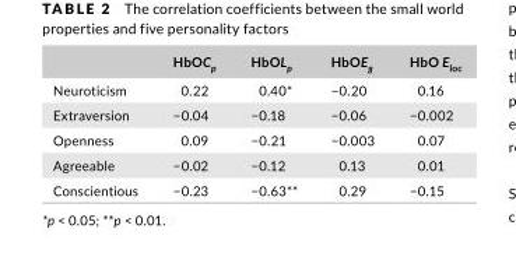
<table><thead><tr><td></td><td>HbOC<sub>p</sub></td><td>HbOL<sub>p</sub></td><td>HbOE<sub>g</sub></td><td>HbO E<sub>loc</sub></td></tr></thead><tbody><tr><td>Neuroticism</td><td>0.22</td><td>0.40*</td><td>−0.20</td><td>0.16</td></tr><tr><td>Extraversion</td><td>−0.04</td><td>−0.18</td><td>−0.06</td><td>−0.002</td></tr><tr><td>Openness</td><td>0.09</td><td>−0.21</td><td>−0.003</td><td>0.07</td></tr><tr><td>Agreeable</td><td>−0.02</td><td>−0.12</td><td>0.13</td><td>0.01</td></tr><tr><td>Conscientious</td><td>−0.23</td><td>−0.63**</td><td>0.29</td><td>−0.15</td></tr></tbody></table>